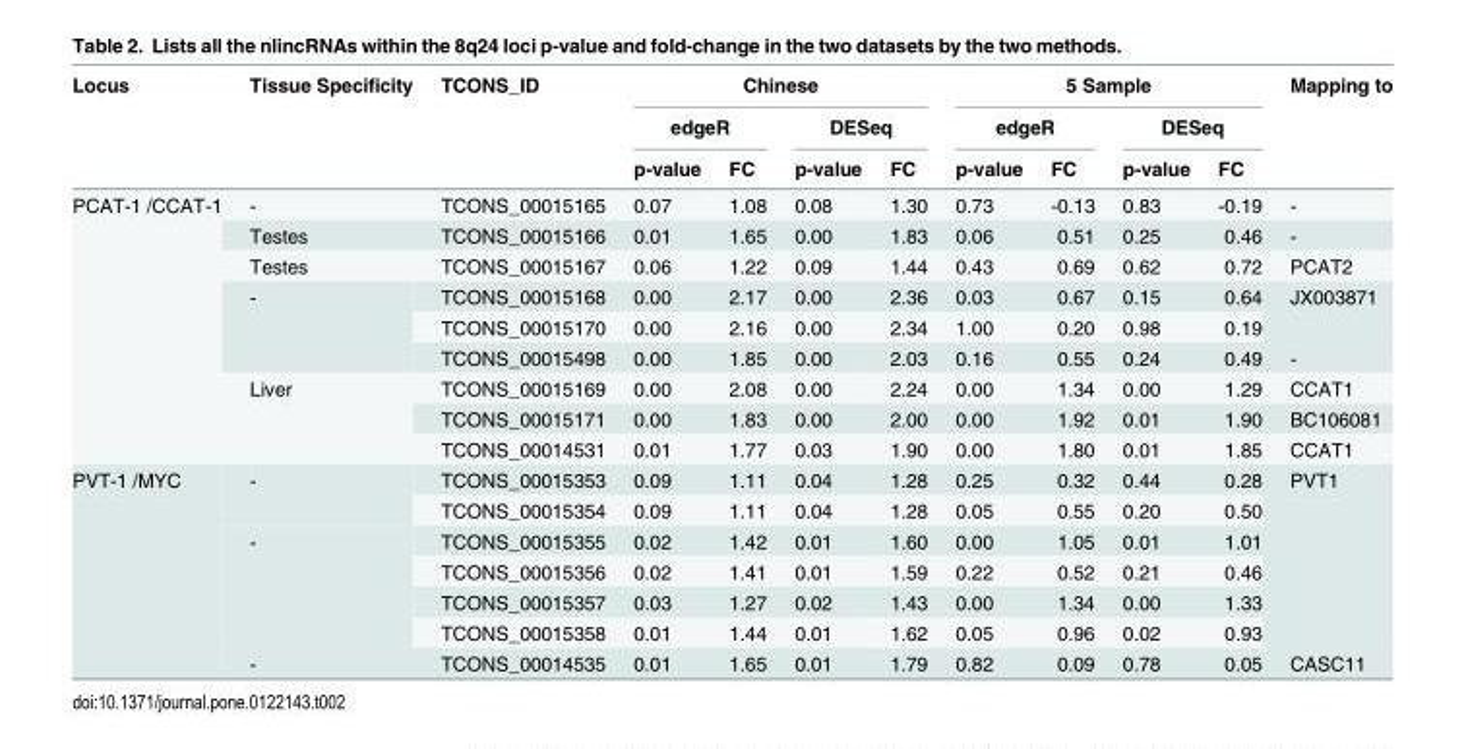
<table><thead><tr><td rowspan="3">Locus</td><td rowspan="3">Tissue Specificity</td><td rowspan="3">TCONS_ID</td><td colspan="4">Chinese</td><td colspan="4">5 Sample</td><td rowspan="3">Mapping to</td></tr><tr><td colspan="2">edgeR</td><td colspan="2">DESeq</td><td colspan="2">edgeR</td><td colspan="2">DESeq</td></tr><tr><td>p-value</td><td>FC</td><td>p-value</td><td>FC</td><td>p-value</td><td>FC</td><td>p-value</td><td>FC</td></tr></thead><tbody><tr><td rowspan="9">PCAT-1 /CCAT-1</td><td>-</td><td>TCONS_00015165</td><td>0.07</td><td>1.08</td><td>0.08</td><td>1.30</td><td>0.73</td><td>-0.13</td><td>0.83</td><td>-0.19</td><td>-</td></tr><tr><td>Testes</td><td>TCONS_00015166</td><td>0.01</td><td>1.65</td><td>0.00</td><td>1.83</td><td>0.06</td><td>0.51</td><td>0.25</td><td>0.46</td><td>-</td></tr><tr><td>Testes</td><td>TCONS_00015167</td><td>0.06</td><td>1.22</td><td>0.09</td><td>1.44</td><td>0.43</td><td>0.69</td><td>0.62</td><td>0.72</td><td>PCAT2</td></tr><tr><td rowspan="3">-</td><td>TCONS_00015168</td><td>0.00</td><td>2.17</td><td>0.00</td><td>2.36</td><td>0.03</td><td>0.67</td><td>0.15</td><td>0.64</td><td rowspan="2">JX003871</td></tr><tr><td>TCONS_00015170</td><td>0.00</td><td>2.16</td><td>0.00</td><td>2.34</td><td>1.00</td><td>0.20</td><td>0.98</td><td>0.19</td></tr><tr><td>TCONS_00015498</td><td>0.00</td><td>1.85</td><td>0.00</td><td>2.03</td><td>0.16</td><td>0.55</td><td>0.24</td><td>0.49</td><td>-</td></tr><tr><td rowspan="3">Liver</td><td>TCONS_00015169</td><td>0.00</td><td>2.08</td><td>0.00</td><td>2.24</td><td>0.00</td><td>1.34</td><td>0.00</td><td>1.29</td><td>CCAT1</td></tr><tr><td>TCONS_00015171</td><td>0.00</td><td>1.83</td><td>0.00</td><td>2.00</td><td>0.00</td><td>1.92</td><td>0.01</td><td>1.90</td><td>BC106081</td></tr><tr><td>TCONS_00014531</td><td>0.01</td><td>1.77</td><td>0.03</td><td>1.90</td><td>0.00</td><td>1.80</td><td>0.01</td><td>1.85</td><td>CCAT1</td></tr><tr><td rowspan="7">PVT-1 /MYC</td><td rowspan="2">-</td><td>TCONS_00015353</td><td>0.09</td><td>1.11</td><td>0.04</td><td>1.28</td><td>0.25</td><td>0.32</td><td>0.44</td><td>0.28</td><td rowspan="6">PVT1</td></tr><tr><td>TCONS_00015354</td><td>0.09</td><td>1.11</td><td>0.04</td><td>1.28</td><td>0.05</td><td>0.55</td><td>0.20</td><td>0.50</td></tr><tr><td rowspan="4">-</td><td>TCONS_00015355</td><td>0.02</td><td>1.42</td><td>0.01</td><td>1.60</td><td>0.00</td><td>1.05</td><td>0.01</td><td>1.01</td></tr><tr><td>TCONS_00015356</td><td>0.02</td><td>1.41</td><td>0.01</td><td>1.59</td><td>0.22</td><td>0.52</td><td>0.21</td><td>0.46</td></tr><tr><td>TCONS_00015357</td><td>0.03</td><td>1.27</td><td>0.02</td><td>1.43</td><td>0.00</td><td>1.34</td><td>0.00</td><td>1.33</td></tr><tr><td>TCONS_00015358</td><td>0.01</td><td>1.44</td><td>0.01</td><td>1.62</td><td>0.05</td><td>0.96</td><td>0.02</td><td>0.93</td></tr><tr><td>-</td><td>TCONS_00014535</td><td>0.01</td><td>1.65</td><td>0.01</td><td>1.79</td><td>0.82</td><td>0.09</td><td>0.78</td><td>0.05</td><td>CASC11</td></tr></tbody></table>